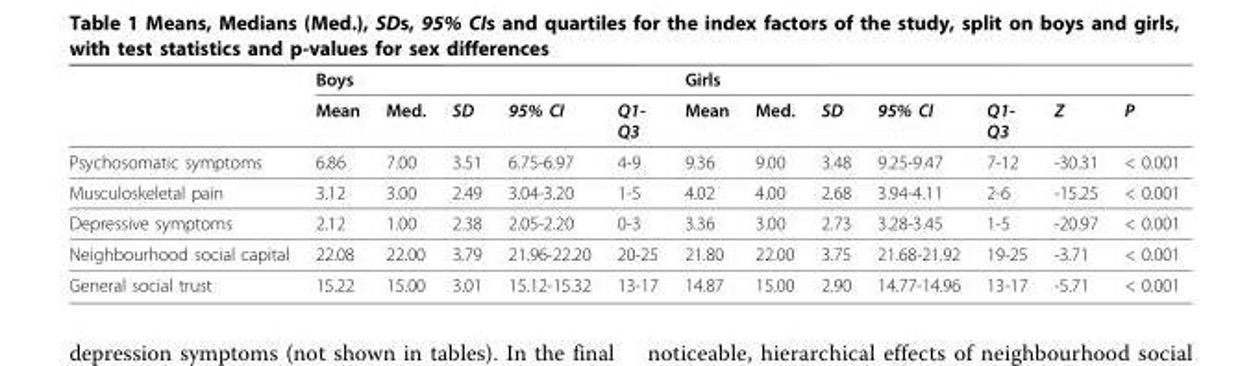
<table><thead><tr><td rowspan="2"></td><td colspan="5">Boys</td><td colspan="5">Girls</td><td rowspan="2">Z</td><td rowspan="2">P</td></tr><tr><td>Mean</td><td>Med.</td><td>SD</td><td>95% CI</td><td>Q1- Q3</td><td>Mean</td><td>Med.</td><td>SD</td><td>95% CI</td><td>Q1- Q3</td></tr></thead><tbody><tr><td>Psychosomatic symptoms</td><td>6.86</td><td>7.00</td><td>3.51</td><td>6.75-6.97</td><td>4-9</td><td>9.36</td><td>9.00</td><td>3.48</td><td>9.25-9.47</td><td>7-12</td><td>-30.31</td><td>&lt; 0.001</td></tr><tr><td>Musculoskeletal pain</td><td>3.12</td><td>3.00</td><td>2.49</td><td>3.04-3.20</td><td>1-5</td><td>4.02</td><td>4.00</td><td>2.68</td><td>3.94-4.11</td><td>2-6</td><td>-15.25</td><td>&lt; 0.001</td></tr><tr><td>Depressive symptoms</td><td>2.12</td><td>1.00</td><td>2.38</td><td>2.05-2.20</td><td>0-3</td><td>3.36</td><td>3.00</td><td>2.73</td><td>3.28-3.45</td><td>1-5</td><td>-20.97</td><td>&lt; 0.001</td></tr><tr><td>Neighbourhood social capital</td><td>22.08</td><td>22.00</td><td>3.79</td><td>21.96-22.20</td><td>20-25</td><td>21.80</td><td>22.00</td><td>3.75</td><td>21.68-21.92</td><td>19-25</td><td>-3.71</td><td>&lt; 0.001</td></tr><tr><td>General social trust</td><td>15.22</td><td>15.00</td><td>3.01</td><td>15.12-15.32</td><td>13-17</td><td>14.87</td><td>15.00</td><td>2.90</td><td>14.77-14.96</td><td>13-17</td><td>-5.71</td><td>&lt; 0.001</td></tr></tbody></table>